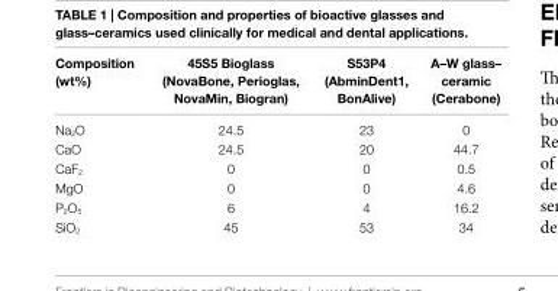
<table><thead><tr><td>Composition (wt%)</td><td>45S5 Bioglass (NovaBone, Perioglas, NovaMin, Biogran)</td><td>S53P4 (AbminDent1, BonAlive)</td><td>A–w glass– ceramic (Cerabone)</td></tr></thead><tbody><tr><td>Na<sub>2</sub>O</td><td>24.5</td><td>23</td><td>0</td></tr><tr><td>CaO</td><td>24.5</td><td>20</td><td>44.7</td></tr><tr><td>CaF<sub>2</sub></td><td>0</td><td>0</td><td>0.5</td></tr><tr><td>MgO</td><td>0</td><td>0</td><td>4.6</td></tr><tr><td>P<sub>2</sub>O<sub>5</sub></td><td>6</td><td>4</td><td>16.2</td></tr><tr><td>SiO<sub>2</sub></td><td>45</td><td>53</td><td>34</td></tr></tbody></table>